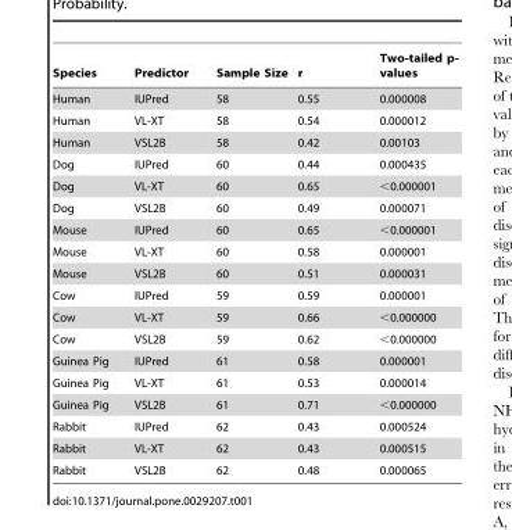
<table><thead><tr><td>Species</td><td>Predictor</td><td>Sample Size</td><td>r</td><td>Two-tailed p- values</td></tr></thead><tbody><tr><td>Human</td><td>IUPred</td><td>58</td><td>0.55</td><td>0.000008</td></tr><tr><td>Human</td><td>VL-XT</td><td>58</td><td>0.54</td><td>0.000012</td></tr><tr><td>Human</td><td>VSL2B</td><td>58</td><td>0.42</td><td>0.00103</td></tr><tr><td>Dog</td><td>IUPred</td><td>60</td><td>0.44</td><td>0.000435</td></tr><tr><td>Dog</td><td>VL-XT</td><td>60</td><td>0.65</td><td>&lt;0.000001</td></tr><tr><td>Dog</td><td>VSL2B</td><td>60</td><td>0.49</td><td>0.000071</td></tr><tr><td>Mouse</td><td>IUPred</td><td>60</td><td>0.65</td><td>&lt;0.000001</td></tr><tr><td>Mouse</td><td>VL-XT</td><td>60</td><td>0.58</td><td>0.000001</td></tr><tr><td>Mouse</td><td>VSL2B</td><td>60</td><td>0.51</td><td>0.000031</td></tr><tr><td>Cow</td><td>IUPred</td><td>59</td><td>0.59</td><td>0.000001</td></tr><tr><td>Cow</td><td>VL-XT</td><td>59</td><td>0.66</td><td>&lt;0.000000</td></tr><tr><td>Cow</td><td>VSL2B</td><td>59</td><td>0.62</td><td>&lt;0.000000</td></tr><tr><td>Guinea Pig</td><td>IUPred</td><td>61</td><td>0.58</td><td>0.000001</td></tr><tr><td>Guinea Pig</td><td>VL-XT</td><td>61</td><td>0.53</td><td>0.000014</td></tr><tr><td>Guinea Pig</td><td>VSL2B</td><td>61</td><td>0.71</td><td>&lt;0.000000</td></tr><tr><td>Rabbit</td><td>IUPred</td><td>62</td><td>0.43</td><td>0.000524</td></tr><tr><td>Rabbit</td><td>VL-XT</td><td>62</td><td>0.43</td><td>0.000515</td></tr><tr><td>Rabbit</td><td>VSL2B</td><td>62</td><td>0.48</td><td>0.000065</td></tr></tbody></table>